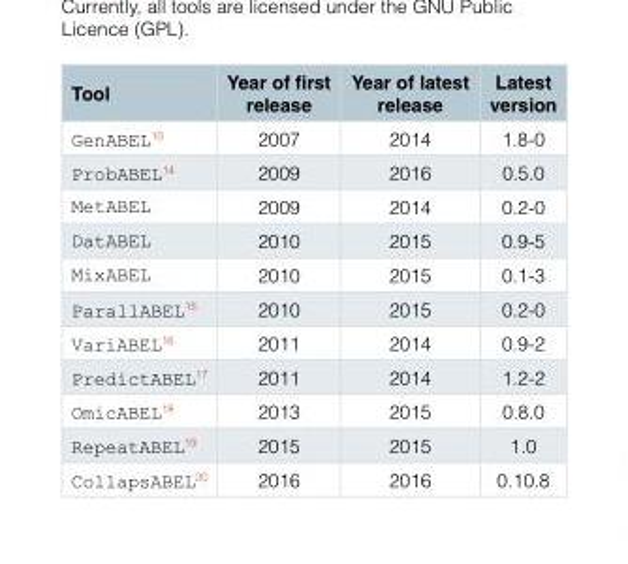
<table><thead><tr><td>Tool</td><td>Year of first release</td><td>Year of latest release</td><td>Latest version</td></tr></thead><tbody><tr><td>GenABEL<sup>10</sup></td><td>2007</td><td>2014</td><td>1.8-0</td></tr><tr><td>ProbABEL<sup>14</sup></td><td>2009</td><td>2016</td><td>0.5.0</td></tr><tr><td>MetABEL</td><td>2009</td><td>2014</td><td>0.2-0</td></tr><tr><td>DatABEL</td><td>2010</td><td>2015</td><td>0.9-5</td></tr><tr><td>MixABEL</td><td>2010</td><td>2015</td><td>0.1-3</td></tr><tr><td>ParallABEL<sup>15</sup></td><td>2010</td><td>2015</td><td>0.2-0</td></tr><tr><td>VariABEL<sup>16</sup></td><td>2011</td><td>2014</td><td>0.9-2</td></tr><tr><td>PredictABEL<sup>17</sup></td><td>2011</td><td>2014</td><td>1.2-2</td></tr><tr><td>OmicABEL<sup>18</sup></td><td>2013</td><td>2015</td><td>0.8.0</td></tr><tr><td>RepeatABEL<sup>19</sup></td><td>2015</td><td>2015</td><td>1.0</td></tr><tr><td>CollapsABEL<sup>20</sup></td><td>2016</td><td>2016</td><td>0.10.8</td></tr></tbody></table>